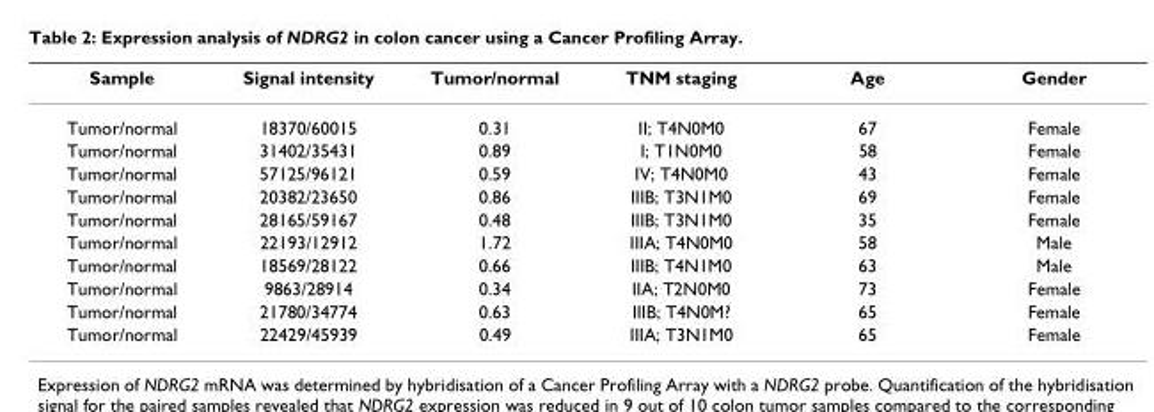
<table><thead><tr><td>Sample</td><td>Signal intensity</td><td>Tumor/normal</td><td>TNM staging</td><td>Age</td><td>Gender</td></tr></thead><tbody><tr><td>Tumor/normal</td><td>18370/60015</td><td>0.31</td><td>II; T4N0M0</td><td>67</td><td>Female</td></tr><tr><td>Tumor/normal</td><td>31402/35431</td><td>0.89</td><td>I; T1N0M0</td><td>58</td><td>Female</td></tr><tr><td>Tumor/normal</td><td>57125/96121</td><td>0.59</td><td>IV; T4N0M0</td><td>43</td><td>Female</td></tr><tr><td>Tumor/normal</td><td>20382/23650</td><td>0.86</td><td>IIIB; T3N1M0</td><td>69</td><td>Female</td></tr><tr><td>Tumor/normal</td><td>28165/59167</td><td>0.48</td><td>IIIB; T3N1M0</td><td>35</td><td>Female</td></tr><tr><td>Tumor/normal</td><td>22193/12912</td><td>1.72</td><td>IIIA; T4N0M0</td><td>58</td><td>Male</td></tr><tr><td>Tumor/normal</td><td>18569/28122</td><td>0.66</td><td>IIIB; T4N1M0</td><td>63</td><td>Male</td></tr><tr><td>Tumor/normal</td><td>9863/28914</td><td>0.34</td><td>IIA; T2N0M0</td><td>73</td><td>Female</td></tr><tr><td>Tumor/normal</td><td>21780/34774</td><td>0.63</td><td>IIIB; T4N0M?</td><td>65</td><td>Female</td></tr><tr><td>Tumor/normal</td><td>22429/45939</td><td>0.49</td><td>IIIA; T3N1M0</td><td>65</td><td>Female</td></tr></tbody></table>